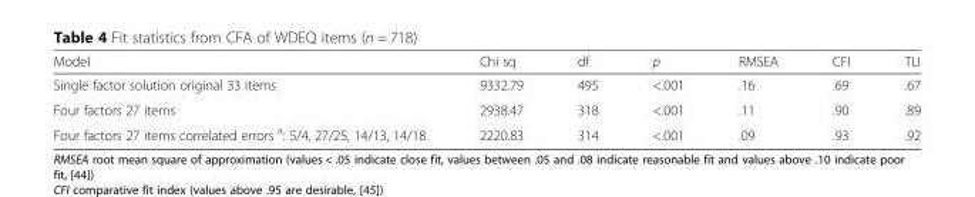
<table><thead><tr><td>Model</td><td>Chi sq</td><td>df</td><td>p</td><td>RMSEA</td><td>CFI</td><td>TLI</td></tr></thead><tbody><tr><td>Single factor solution original 33 items</td><td>9332.79</td><td>495</td><td>&lt;.001</td><td>.16</td><td>.69</td><td>.67</td></tr><tr><td>Four factors 27 items</td><td>2938.47</td><td>318</td><td>&lt;.001</td><td>.11</td><td>.90</td><td>.89</td></tr><tr><td>Four factors 27 items correlated errors <sup>a</sup>: 5/4, 27/25, 14/13, 14/18</td><td>2220.83</td><td>314</td><td>&lt;.001</td><td>.09</td><td>.93</td><td>.92</td></tr></tbody></table>